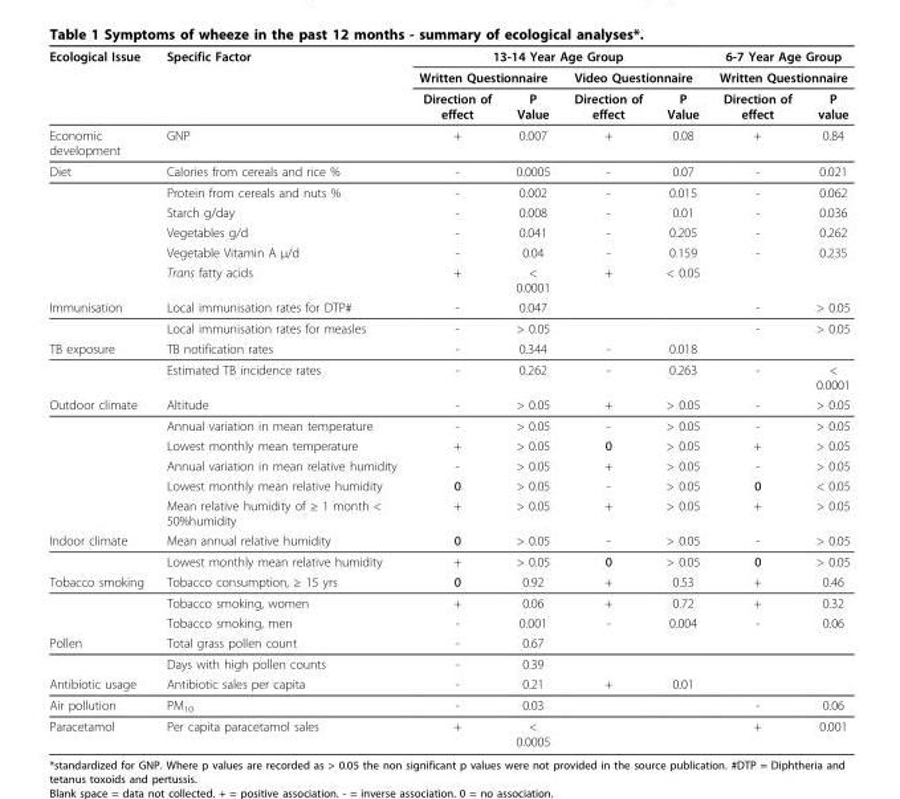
<table><thead><tr><td rowspan="3">Ecological Issue</td><td rowspan="3">Specific Factor</td><td colspan="4">13-14 Year Age Group</td><td rowspan="2" colspan="2">6-7 Year Age Group Written Questionnaire</td></tr><tr><td colspan="2">Written Questionnaire</td><td colspan="2">Video Questionnaire</td></tr><tr><td>Direction of effect</td><td>P Value</td><td>Direction of effect</td><td>P Value</td><td>Direction of effect</td><td>P value</td></tr></thead><tbody><tr><td>Economic development</td><td>GNP</td><td>+</td><td>0.007</td><td>+</td><td>0.08</td><td>+</td><td>0.84</td></tr><tr><td rowspan="6">Diet</td><td>Calories from cereals and rice %</td><td>-</td><td>0.0005</td><td>-</td><td>0.07</td><td>-</td><td>0.021</td></tr><tr><td>Protein from cereals and nuts %</td><td>-</td><td>0.002</td><td>-</td><td>0.015</td><td>-</td><td>0.062</td></tr><tr><td>Starch g/day</td><td>-</td><td>0.008</td><td>-</td><td>0.01</td><td>-</td><td>0.036</td></tr><tr><td>Vegetables g/d</td><td>-</td><td>0.041</td><td>-</td><td>0.205</td><td>-</td><td>0.262</td></tr><tr><td>Vegetable Vitamin A μ/d</td><td>-</td><td>0.04</td><td>-</td><td>0.159</td><td>-</td><td>0.235</td></tr><tr><td>Trans fatty acids</td><td>+</td><td>&lt; 0.0001</td><td>+</td><td>&lt; 0.05</td><td></td><td></td></tr><tr><td rowspan="2">Immunisation</td><td>Local immunisation rates for DTP#</td><td>-</td><td>0.047</td><td></td><td></td><td>-</td><td>&gt; 0.05</td></tr><tr><td>Local immunisation rates for measles</td><td>-</td><td>&gt; 0.05</td><td></td><td></td><td>-</td><td>&gt; 0.05</td></tr><tr><td rowspan="2">TB exposure</td><td>TB notification rates</td><td>-</td><td>0.344</td><td>-</td><td>0.018</td><td></td><td></td></tr><tr><td>Estimated TB incidence rates</td><td>-</td><td>0.262</td><td>-</td><td>0.263</td><td>-</td><td>&lt; 0.0001</td></tr><tr><td rowspan="6">Outdoor climate</td><td>Altitude</td><td>-</td><td>&gt; 0.05</td><td>+</td><td>&gt; 0.05</td><td>-</td><td>&gt; 0.05</td></tr><tr><td>Annual variation in mean temperature</td><td>-</td><td>&gt; 0.05</td><td>-</td><td>&gt; 0.05</td><td>-</td><td>&gt; 0.05</td></tr><tr><td>Lowest monthly mean temperature</td><td>+</td><td>&gt; 0.05</td><td>0</td><td>&gt; 0.05</td><td>+</td><td>&gt; 0.05</td></tr><tr><td>Annual variation in mean relative humidity</td><td>-</td><td>&gt; 0.05</td><td>+</td><td>&gt; 0.05</td><td>-</td><td>&gt; 0.05</td></tr><tr><td>Lowest monthly mean relative humidity</td><td>0</td><td>&gt; 0.05</td><td>-</td><td>&gt; 0.05</td><td>0</td><td>&lt; 0.05</td></tr><tr><td>Mean relative humidity of ≥ 1 month &lt; 50%humidity</td><td>+</td><td>&gt; 0.05</td><td>+</td><td>&gt; 0.05</td><td>+</td><td>&gt; 0.05</td></tr><tr><td rowspan="2">Indoor climate</td><td>Mean annual relative humidity</td><td>0</td><td>&gt; 0.05</td><td>-</td><td>&gt; 0.05</td><td>-</td><td>&gt; 0.05</td></tr><tr><td>Lowest monthly mean relative humidity</td><td>+</td><td>&gt; 0.05</td><td>0</td><td>&gt; 0.05</td><td>0</td><td>&gt; 0.05</td></tr><tr><td rowspan="3">Tobacco smoking</td><td>Tobacco consumption, ≥ 15 yrs</td><td>0</td><td>0.92</td><td>+</td><td>0.53</td><td>+</td><td>0.46</td></tr><tr><td>Tobacco smoking, women</td><td>+</td><td>0.06</td><td>+</td><td>0.72</td><td>+</td><td>0.32</td></tr><tr><td>Tobacco smoking, men</td><td>-</td><td>0.001</td><td>-</td><td>0.004</td><td>-</td><td>0.06</td></tr><tr><td rowspan="2">Pollen</td><td>Total grass pollen count</td><td>-</td><td>0.67</td><td></td><td></td><td></td><td></td></tr><tr><td>Days with high pollen counts</td><td>-</td><td>0.39</td><td></td><td></td><td></td><td></td></tr><tr><td>Antibiotic usage</td><td>Antibiotic sales per capita</td><td>-</td><td>0.21</td><td>+</td><td>0.01</td><td></td><td></td></tr><tr><td>Air pollution</td><td>PM<sub>10</sub></td><td>-</td><td>0.03</td><td></td><td></td><td>-</td><td>0.06</td></tr><tr><td>Paracetamol</td><td>Per capita paracetamol sales</td><td>+</td><td>&lt; 0.0005</td><td></td><td></td><td>+</td><td>0.001</td></tr></tbody></table>